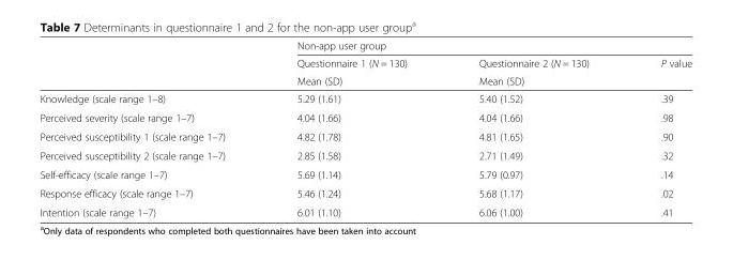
<table><thead><tr><td rowspan="3"></td><td colspan="3">Non-app user group</td></tr><tr><td rowspan="2">Questionnaire 1 (N = 130) Mean (SD)</td><td rowspan="2">Questionnaire 2 (N = 130) Mean (SD)</td><td rowspan="2">P value</td></tr><tr></tr></thead><tbody><tr><td>Knowledge (scale range 1–8)</td><td>5.29 (1.61)</td><td>5.40 (1.52)</td><td>.39</td></tr><tr><td>Perceived severity (scale range 1–7)</td><td>4.04 (1.66)</td><td>4.04 (1.66)</td><td>.98</td></tr><tr><td>Perceived susceptibility 1 (scale range 1–7)</td><td>4.82 (1.78)</td><td>4.81 (1.65)</td><td>.90</td></tr><tr><td>Perceived susceptibility 2 (scale range 1–7)</td><td>2.85 (1.58)</td><td>2.71 (1.49)</td><td>.32</td></tr><tr><td>Self-efficacy (scale range 1–7)</td><td>5.69 (1.14)</td><td>5.79 (0.97)</td><td>.14</td></tr><tr><td>Response efficacy (scale range 1–7)</td><td>5.46 (1.24)</td><td>5.68 (1.17)</td><td>.02</td></tr><tr><td>Intention (scale range 1–7)</td><td>6.01 (1.10)</td><td>6.06 (1.00)</td><td>.41</td></tr></tbody></table>